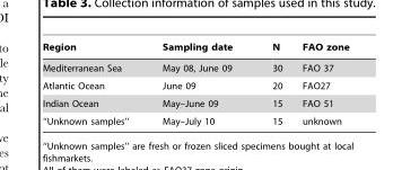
<table><thead><tr><td>Region</td><td>Sampling date</td><td>N</td><td>FAO zone</td></tr></thead><tbody><tr><td>Mediterranean Sea</td><td>May 08, June 09</td><td>30</td><td>FAO 37</td></tr><tr><td>Atlantic Ocean</td><td>June 09</td><td>20</td><td>FAO27</td></tr><tr><td>Indian Ocean</td><td>May–June 09</td><td>15</td><td>FAO 51</td></tr><tr><td>‘‘Unknown samples’’</td><td>May–July 10</td><td>15</td><td>unknown</td></tr></tbody></table>